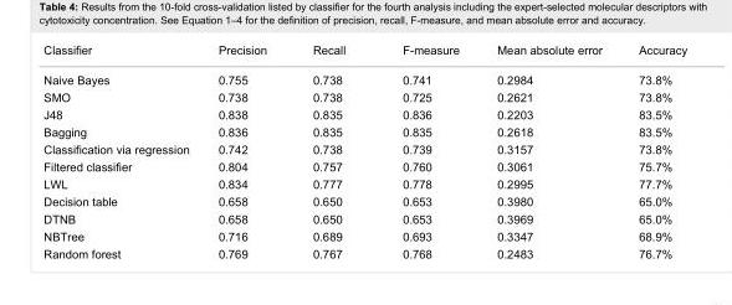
<table><tbody><tr><td>Classifier</td><td>Precision</td><td>Recall</td><td>F-measure</td><td>Mean absolute error</td><td>Accuracy</td></tr><tr><td>Naive Bayes</td><td>0.755</td><td>0.738</td><td>0.741</td><td>0.2984</td><td>73.8%</td></tr><tr><td>SMO</td><td>0.738</td><td>0.738</td><td>0.725</td><td>0.2621</td><td>73.8%</td></tr><tr><td>J48</td><td>0.838</td><td>0.835</td><td>0.836</td><td>0.2203</td><td>83.5%</td></tr><tr><td>Bagging</td><td>0.836</td><td>0.835</td><td>0.835</td><td>0.2618</td><td>83.5%</td></tr><tr><td>Classification via regression</td><td>0.742</td><td>0.738</td><td>0.739</td><td>0.3157</td><td>73.8%</td></tr><tr><td>Filtered classifier</td><td>0.804</td><td>0.757</td><td>0.760</td><td>0.3061</td><td>75.7%</td></tr><tr><td>LWL</td><td>0.834</td><td>0.777</td><td>0.778</td><td>0.2995</td><td>77.7%</td></tr><tr><td>Decision table</td><td>0.658</td><td>0.650</td><td>0.653</td><td>0.3980</td><td>65.0%</td></tr><tr><td>DTNB</td><td>0.658</td><td>0.650</td><td>0.653</td><td>0.3969</td><td>65.0%</td></tr><tr><td>NBTree</td><td>0.716</td><td>0.689</td><td>0.693</td><td>0.3347</td><td>68.9%</td></tr><tr><td>Random forest</td><td>0.769</td><td>0.767</td><td>0.768</td><td>0.2483</td><td>76.7%</td></tr></tbody></table>